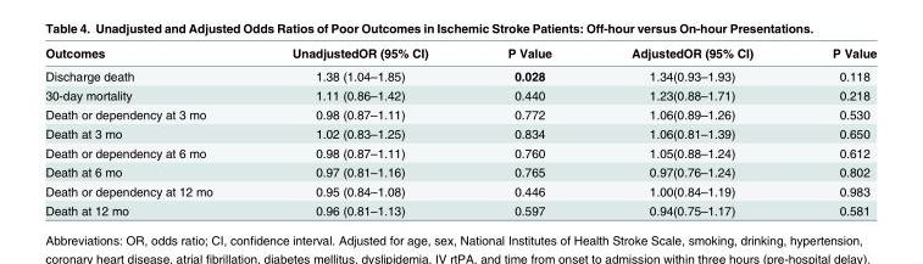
<table><thead><tr><td>Outcomes</td><td>UnadjustedOR (95% CI)</td><td>P Value</td><td>AdjustedOR (95% CI)</td><td>P Value</td></tr></thead><tbody><tr><td>Discharge death</td><td>1.38 (1.04–1.85)</td><td>0.028</td><td>1.34(0.93–1.93)</td><td>0.118</td></tr><tr><td>30-day mortality</td><td>1.11 (0.86–1.42)</td><td>0.440</td><td>1.23(0.88–1.71)</td><td>0.218</td></tr><tr><td>Death or dependency at 3 mo</td><td>0.98 (0.87–1.11)</td><td>0.772</td><td>1.06(0.89–1.26)</td><td>0.530</td></tr><tr><td>Death at 3 mo</td><td>1.02 (0.83–1.25)</td><td>0.834</td><td>1.06(0.81–1.39)</td><td>0.650</td></tr><tr><td>Death or dependency at 6 mo</td><td>0.98 (0.87–1.11)</td><td>0.760</td><td>1.05(0.88–1.24)</td><td>0.612</td></tr><tr><td>Death at 6 mo</td><td>0.97 (0.81–1.16)</td><td>0.765</td><td>0.97(0.76–1.24)</td><td>0.802</td></tr><tr><td>Death or dependency at 12 mo</td><td>0.95 (0.84–1.08)</td><td>0.446</td><td>1.00(0.84–1.19)</td><td>0.983</td></tr><tr><td>Death at 12 mo</td><td>0.96 (0.81–1.13)</td><td>0.597</td><td>0.94(0.75–1.17)</td><td>0.581</td></tr></tbody></table>